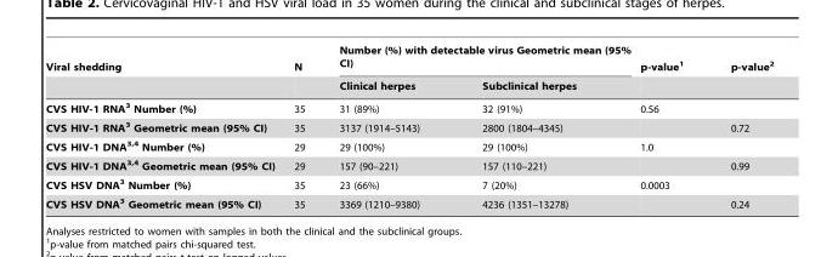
<table><thead><tr><td rowspan="2">Viral shedding</td><td rowspan="2">N</td><td colspan="2">Number (%) with detectable virus Geometric mean (95% CI)</td><td rowspan="2">p-value<sup>1</sup></td><td rowspan="2">p-value<sup>2</sup></td></tr><tr><td>Clinical herpes</td><td>Subclinical herpes</td></tr></thead><tbody><tr><td>CVS HIV-1 RNA3 Number (%)</td><td>35</td><td>31 (89%)</td><td>32 (91%)</td><td>0.56</td><td></td></tr><tr><td>CVS HIV-1 RNA3 Geometric mean (95% CI)</td><td>35</td><td>3137 (1914–5143)</td><td>2800 (1804–4345)</td><td></td><td>0.72</td></tr><tr><td>CVS HIV-1 DNA3,4 Number (%)</td><td>29</td><td>29 (100%)</td><td>29 (100%)</td><td>1.0</td><td></td></tr><tr><td>CVS HIV-1 DNA3,4 Geometric mean (95% CI)</td><td>29</td><td>157 (90–221)</td><td>157 (110–221)</td><td></td><td>0.99</td></tr><tr><td>CVS HSV DNA3 Number (%)</td><td>35</td><td>23 (66%)</td><td>7 (20%)</td><td>0.0003</td><td></td></tr><tr><td>CVS HSV DNA3 Geometric mean (95% CI)</td><td>35</td><td>3369 (1210–9380)</td><td>4236 (1351–13278)</td><td></td><td>0.24</td></tr></tbody></table>